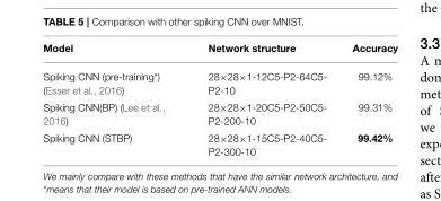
<table><thead><tr><td>Model</td><td>Network structure</td><td>Accuracy</td></tr></thead><tbody><tr><td>Spiking CNN (pre-training*) (Esser et al., 2016)</td><td>28×28×1-12C5-P2-64C5- P2-10</td><td>99.12%</td></tr><tr><td>Spiking CNN(BP) (Lee et al., 2016)</td><td>28×28×1-20C5-P2-50C5- P2-200-10</td><td>99.31%</td></tr><tr><td>Spiking CNN (STBP)</td><td>28×28×1-15C5-P2-40C5- P2-300-10</td><td>99.42%</td></tr></tbody></table>